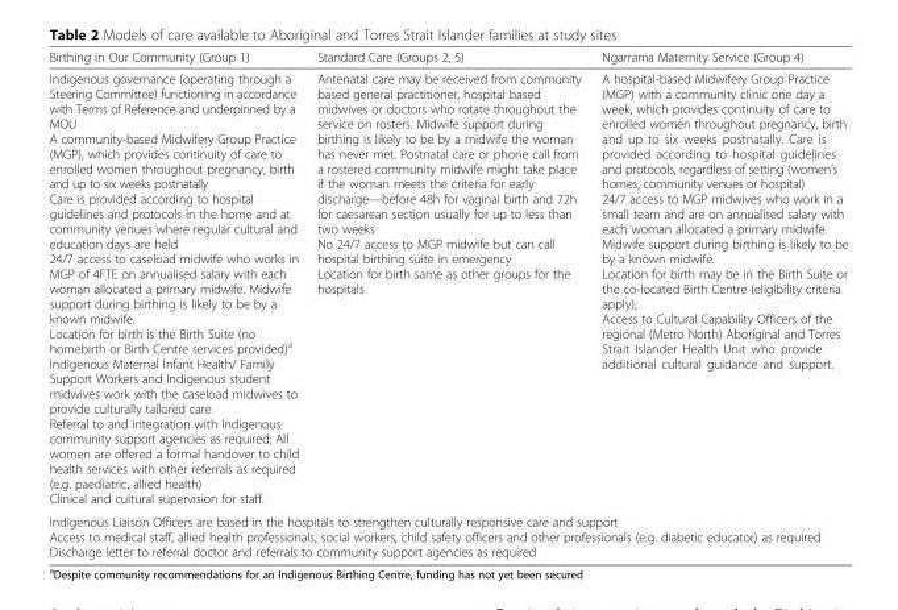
<table><thead><tr><td>Birthing in Our Community (Group 1)</td><td>Standard Care (Groups 2, 5)</td><td>Ngarrama Maternity Service (Group 4)</td></tr></thead><tbody><tr><td>Indigenous governance (operating through a Steering Committee) functioning in accordance with Terms of Reference and underpinned by a MOU A community-based Midwifery Group Practice (MGP), which provides continuity of care to enrolled women throughout pregnancy, birth and up to six weeks postnatally Care is provided according to hospital guidelines and protocols in the home and at community venues where regular cultural and education days are held 24/7 access to caseload midwife who works in MGP of 4FTE on annualised salary with each woman allocated a primary midwife. Midwife support during birthing is likely to be by a known midwife. Location for birth is the Birth Suite (no homebirth or Birth Centre services provided)<sup>a</sup> Indigenous Maternal Infant Health/ Family Support Workers and Indigenous student midwives work with the caseload midwives to provide culturally tailored care Referral to and integration with Indigenous community support agencies as required; All women are offered a formal handover to child health services with other referrals as required (e.g. paediatric, allied health) Clinical and cultural supervision for staff.</td><td>Antenatal care may be received from community based general practitioner, hospital based midwives or doctors who rotate throughout the service on rosters. Midwife support during birthing is likely to be by a midwife the woman has never met. Postnatal care or phone call from a rostered community midwife might take place if the woman meets the criteria for early discharge—before 48h for vaginal birth and 72h for caesarean section usually for up to less than two weeks No 24/7 access to MGP midwife but can call hospital birthing suite in emergency Location for birth same as other groups for the hospitals</td><td>A hospital-based Midwifery Group Practice (MGP) with a community clinic one day a week, which provides continuity of care to enrolled women throughout pregnancy, birth and up to six weeks postnatally. Care is provided according to hospital guidelines and protocols, regardless of setting (women’s homes, community venues or hospital) 24/7 access to MGP midwives who work in a small team and are on annualised salary with each woman allocated a primary midwife. Midwife support during birthing is likely to be by a known midwife. Location for birth may be in the Birth Suite or the co-located Birth Centre (eligibility criteria apply); Access to Cultural Capability Officers of the regional (Metro North) Aboriginal and Torres Strait Islander Health Unit who provide additional cultural guidance and support.</td></tr><tr><td colspan="3">Indigenous Liaison Officers are based in the hospitals to strengthen culturally responsive care and support Access to medical staff, allied health professionals, social workers, child safety officers and other professionals (e.g. diabetic educator) as required Discharge letter to referral doctor and referrals to community support agencies as required</td></tr></tbody></table>